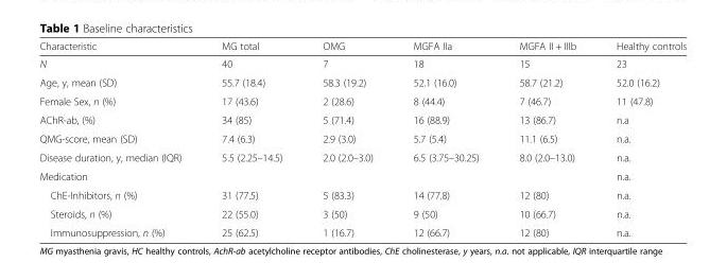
<table><thead><tr><td>Characteristic</td><td>MG total</td><td>OMG</td><td>MGFA IIa</td><td>MGFA II + IIIb</td><td>Healthy controls</td></tr></thead><tbody><tr><td>N</td><td>40</td><td>7</td><td>18</td><td>15</td><td>23</td></tr><tr><td>Age, y, mean (SD)</td><td>55.7 (18.4)</td><td>58.3 (19.2)</td><td>52.1 (16.0)</td><td>58.7 (21.2)</td><td>52.0 (16.2)</td></tr><tr><td>Female Sex, n (%)</td><td>17 (43.6)</td><td>2 (28.6)</td><td>8 (44.4)</td><td>7 (46.7)</td><td>11 (47.8)</td></tr><tr><td>AChR-ab, (%)</td><td>34 (85)</td><td>5 (71.4)</td><td>16 (88.9)</td><td>13 (86.7)</td><td>n.a</td></tr><tr><td>QMG-score, mean (SD)</td><td>7.4 (6.3)</td><td>2.9 (3.0)</td><td>5.7 (5.4)</td><td>11.1 (6.5)</td><td>n.a.</td></tr><tr><td>Disease duration, y, median (IQR)</td><td>5.5 (2.25–14.5)</td><td>2.0 (2.0–3.0)</td><td>6.5 (3.75–30.25)</td><td>8.0 (2.0–13.0)</td><td>n.a.</td></tr><tr><td>Medication</td><td></td><td></td><td></td><td></td><td>n.a.</td></tr><tr><td>ChE-Inhibitors, n (%)</td><td>31 (77.5)</td><td>5 (83.3)</td><td>14 (77.8)</td><td>12 (80)</td><td>n.a.</td></tr><tr><td>Steroids, n (%)</td><td>22 (55.0)</td><td>3 (50)</td><td>9 (50)</td><td>10 (66.7)</td><td>n.a.</td></tr><tr><td>Immunosuppression, n (%)</td><td>25 (62.5)</td><td>1 (16.7)</td><td>12 (66.7)</td><td>12 (80)</td><td>n.a.</td></tr></tbody></table>